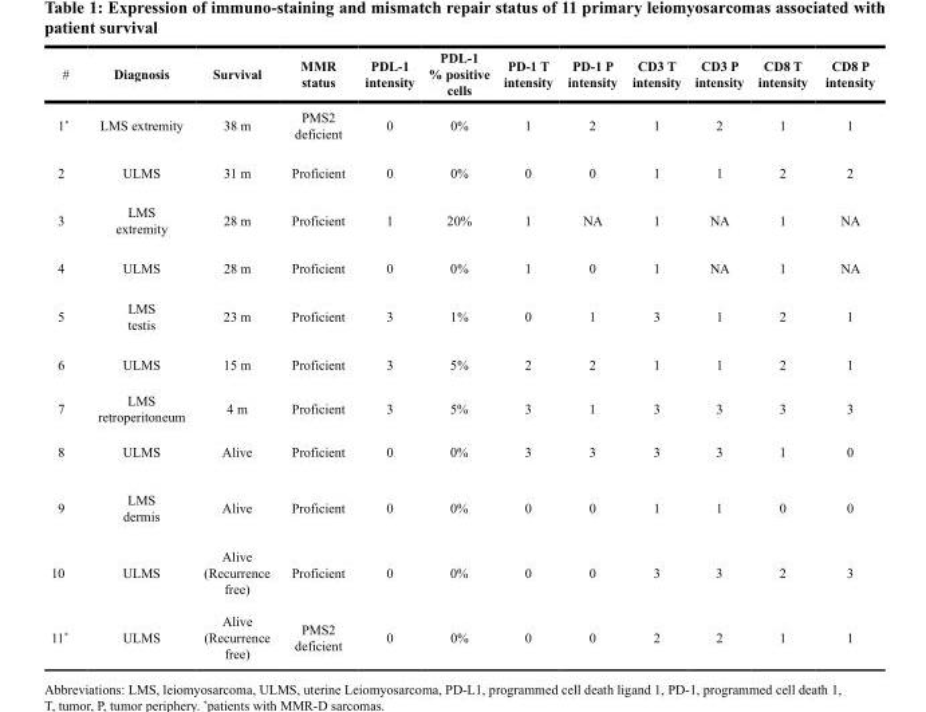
<table><thead><tr><td>#</td><td>diagnosis</td><td>survival</td><td>MMr status</td><td>Pdl-1 intensity</td><td>Pdl-1 % positive cells</td><td>Pd-1 t intensity</td><td>Pd-1 P intensity</td><td>cd3 t intensity</td><td>cd3 P intensity</td><td>cd8 t intensity</td><td>cd8 P intensity</td></tr></thead><tbody><tr><td>1*</td><td>LMS extremity</td><td>38 m</td><td>PMS2 deficient</td><td>0</td><td>0%</td><td>1</td><td>2</td><td>1</td><td>2</td><td>1</td><td>1</td></tr><tr><td>2</td><td>ULMS</td><td>31 m</td><td>Proficient</td><td>0</td><td>0%</td><td>0</td><td>0</td><td>1</td><td>1</td><td>2</td><td>2</td></tr><tr><td>3</td><td>LMS extremity</td><td>28 m</td><td>Proficient</td><td>1</td><td>20%</td><td>1</td><td>NA</td><td>1</td><td>NA</td><td>1</td><td>NA</td></tr><tr><td>4</td><td>ULMS</td><td>28 m</td><td>Proficient</td><td>0</td><td>0%</td><td>1</td><td>0</td><td>1</td><td>NA</td><td>1</td><td>NA</td></tr><tr><td>5</td><td>LMS testis</td><td>23 m</td><td>Proficient</td><td>3</td><td>1%</td><td>0</td><td>1</td><td>3</td><td>1</td><td>2</td><td>1</td></tr><tr><td>6</td><td>ULMS</td><td>15 m</td><td>Proficient</td><td>3</td><td>5%</td><td>2</td><td>2</td><td>1</td><td>1</td><td>2</td><td>1</td></tr><tr><td>7</td><td>LMS retroperitoneum</td><td>4 m</td><td>Proficient</td><td>3</td><td>5%</td><td>3</td><td>1</td><td>3</td><td>3</td><td>3</td><td>3</td></tr><tr><td>8</td><td>ULMS</td><td>Alive</td><td>Proficient</td><td>0</td><td>0%</td><td>3</td><td>3</td><td>3</td><td>3</td><td>1</td><td>0</td></tr><tr><td>9</td><td>LMS dermis</td><td>Alive</td><td>Proficient</td><td>0</td><td>0%</td><td>0</td><td>0</td><td>1</td><td>1</td><td>0</td><td>0</td></tr><tr><td>10</td><td>ULMS</td><td>Alive (Recurrence free)</td><td>Proficient</td><td>0</td><td>0%</td><td>0</td><td>0</td><td>3</td><td>3</td><td>2</td><td>3</td></tr><tr><td>11*</td><td>ULMS</td><td>Alive (Recurrence free)</td><td>PMS2 deficient</td><td>0</td><td>0%</td><td>0</td><td>0</td><td>2</td><td>2</td><td>1</td><td>1</td></tr></tbody></table>